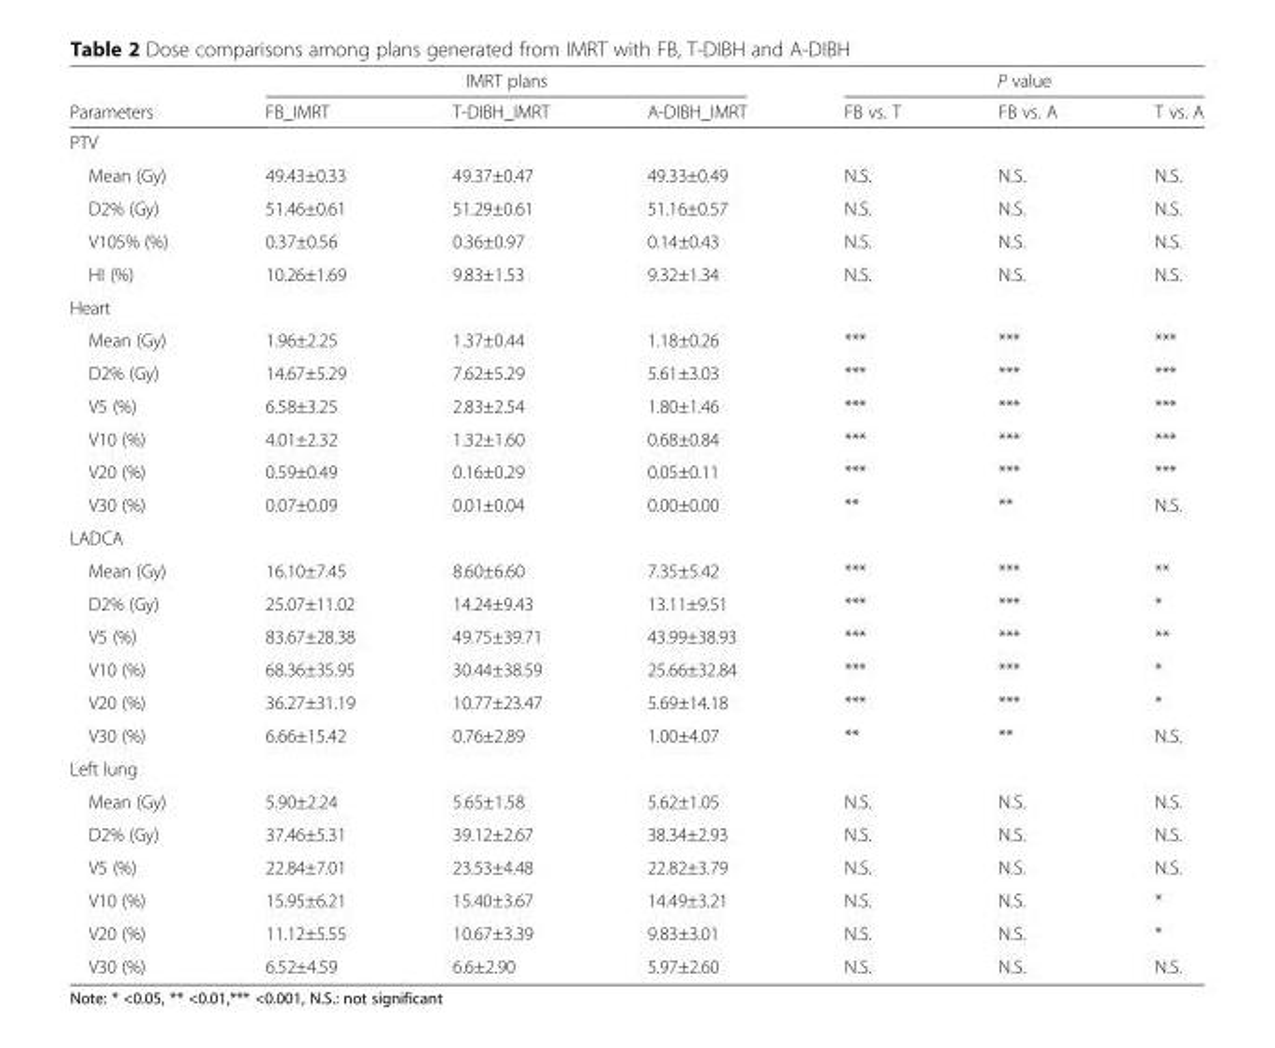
<table><thead><tr><td rowspan="2">Parameters</td><td colspan="3">IMRT plans</td><td colspan="3">P value</td></tr><tr><td>FB_IMRT</td><td>T-DIBH_IMRT</td><td>A-DIBH_IMRT</td><td>FB vs. T</td><td>FB vs. A</td><td>T vs. A</td></tr></thead><tbody><tr><td colspan="7">PTV</td></tr><tr><td>Mean (Gy)</td><td>49.43±0.33</td><td>49.37±0.47</td><td>49.33±0.49</td><td>N.S.</td><td>N.S.</td><td>N.S.</td></tr><tr><td>D2% (Gy)</td><td>51.46±0.61</td><td>51.29±0.61</td><td>51.16±0.57</td><td>N.S.</td><td>N.S.</td><td>N.S.</td></tr><tr><td>V105% (%)</td><td>0.37±0.56</td><td>0.36±0.97</td><td>0.14±0.43</td><td>N.S.</td><td>N.S.</td><td>N.S.</td></tr><tr><td>HI (%)</td><td>10.26±1.69</td><td>9.83±1.53</td><td>9.32±1.34</td><td>N.S.</td><td>N.S.</td><td>N.S.</td></tr><tr><td colspan="7">Heart</td></tr><tr><td>Mean (Gy)</td><td>1.96±2.25</td><td>1.37±0.44</td><td>1.18±0.26</td><td>***</td><td>***</td><td>***</td></tr><tr><td>D2% (Gy)</td><td>14.67±5.29</td><td>7.62±5.29</td><td>5.61±3.03</td><td>***</td><td>***</td><td>***</td></tr><tr><td>V5 (%)</td><td>6.58±3.25</td><td>2.83±2.54</td><td>1.80±1.46</td><td>***</td><td>***</td><td>***</td></tr><tr><td>V10 (%)</td><td>4.01±2.32</td><td>1.32±1.60</td><td>0.68±0.84</td><td>***</td><td>***</td><td>***</td></tr><tr><td>V20 (%)</td><td>0.59±0.49</td><td>0.16±0.29</td><td>0.05±0.11</td><td>***</td><td>***</td><td>***</td></tr><tr><td>V30 (%)</td><td>0.07±0.09</td><td>0.01±0.04</td><td>0.00±0.00</td><td>**</td><td>**</td><td>N.S.</td></tr><tr><td colspan="7">LADCA</td></tr><tr><td>Mean (Gy)</td><td>16.10±7.45</td><td>8.60±6.60</td><td>7.35±5.42</td><td>***</td><td>***</td><td>**</td></tr><tr><td>D2% (Gy)</td><td>25.07±11.02</td><td>14.24±9.43</td><td>13.11±9.51</td><td>***</td><td>***</td><td>*</td></tr><tr><td>V5 (%)</td><td>83.67±28.38</td><td>49.75±39.71</td><td>43.99±38.93</td><td>***</td><td>***</td><td>**</td></tr><tr><td>V10 (%)</td><td>68.36±35.95</td><td>30.44±38.59</td><td>25.66±32.84</td><td>***</td><td>***</td><td>*</td></tr><tr><td>V20 (%)</td><td>36.27±31.19</td><td>10.77±23.47</td><td>5.69±14.18</td><td>***</td><td>***</td><td>*</td></tr><tr><td>V30 (%)</td><td>6.66±15.42</td><td>0.76±2.89</td><td>1.00±4.07</td><td>**</td><td>**</td><td>N.S.</td></tr><tr><td colspan="7">Left lung</td></tr><tr><td>Mean (Gy)</td><td>5.90±2.24</td><td>5.65±1.58</td><td>5.62±1.05</td><td>N.S.</td><td>N.S.</td><td>N.S.</td></tr><tr><td>D2% (Gy)</td><td>37.46±5.31</td><td>39.12±2.67</td><td>38.34±2.93</td><td>N.S.</td><td>N.S.</td><td>N.S.</td></tr><tr><td>V5 (%)</td><td>22.84±7.01</td><td>23.53±4.48</td><td>22.82±3.79</td><td>N.S.</td><td>N.S.</td><td>N.S.</td></tr><tr><td>V10 (%)</td><td>15.95±6.21</td><td>15.40±3.67</td><td>14.49±3.21</td><td>N.S.</td><td>N.S.</td><td>*</td></tr><tr><td>V20 (%)</td><td>11.12±5.55</td><td>10.67±3.39</td><td>9.83±3.01</td><td>N.S.</td><td>N.S.</td><td>*</td></tr><tr><td>V30 (%)</td><td>6.52±4.59</td><td>6.6±2.90</td><td>5.97±2.60</td><td>N.S.</td><td>N.S.</td><td>N.S.</td></tr></tbody></table>